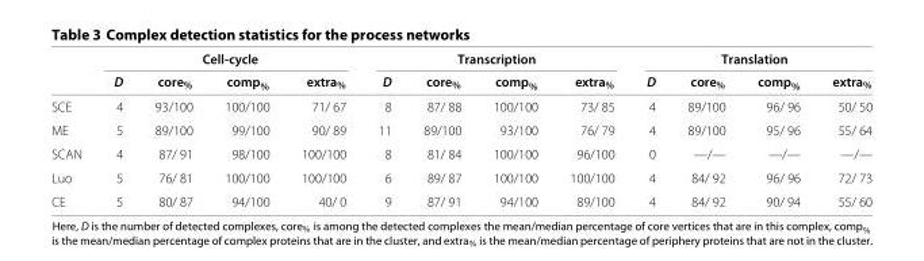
<table><thead><tr><td rowspan="2"></td><td colspan="4">Cell-cycle</td><td colspan="4">Transcription</td><td colspan="4">Translation</td></tr><tr><td>D</td><td>core<sub>%</sub></td><td>comp<sub>%</sub></td><td>extra<sub>%</sub></td><td>D</td><td>core<sub>%</sub></td><td>comp<sub>%</sub></td><td>extra<sub>%</sub></td><td>D</td><td>core<sub>%</sub></td><td>comp<sub>%</sub></td><td>extra<sub>%</sub></td></tr></thead><tbody><tr><td>SCE</td><td>4</td><td>93/100</td><td>100/100</td><td>71/ 67</td><td>8</td><td>87/ 88</td><td>100/100</td><td>73/ 85</td><td>4</td><td>89/100</td><td>96/ 96</td><td>50/ 50</td></tr><tr><td>ME</td><td>5</td><td>89/100</td><td>99/100</td><td>90/ 89</td><td>11</td><td>89/100</td><td>93/100</td><td>76/ 79</td><td>4</td><td>89/100</td><td>95/ 96</td><td>55/ 64</td></tr><tr><td>SCAN</td><td>4</td><td>87/ 91</td><td>98/100</td><td>100/100</td><td>8</td><td>81/ 84</td><td>100/100</td><td>96/100</td><td>0</td><td>—/—</td><td>—/—</td><td>—/—</td></tr><tr><td>Luo</td><td>5</td><td>76/ 81</td><td>100/100</td><td>100/100</td><td>6</td><td>89/ 87</td><td>100/100</td><td>100/100</td><td>4</td><td>84/ 92</td><td>96/ 96</td><td>72/ 73</td></tr><tr><td>CE</td><td>5</td><td>80/ 87</td><td>94/100</td><td>40/ 0</td><td>9</td><td>87/ 91</td><td>94/100</td><td>89/100</td><td>4</td><td>84/ 92</td><td>90/ 94</td><td>55/ 60</td></tr></tbody></table>